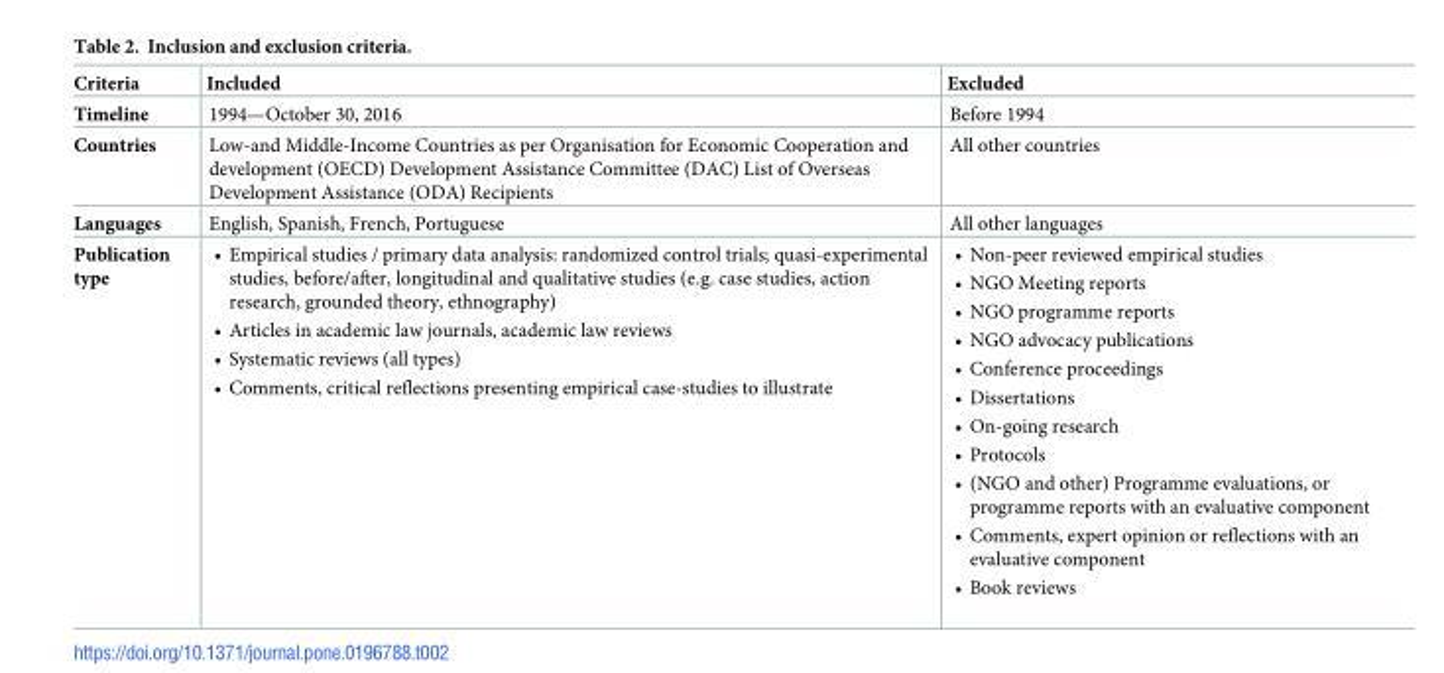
<table><thead><tr><td>Criteria</td><td>Included</td><td>Excluded</td></tr></thead><tbody><tr><td>Timeline</td><td>1994—October 30, 2016</td><td>Before 1994</td></tr><tr><td>Countries</td><td>Low-and Middle-Income Countries as per Organisation for Economic Cooperation and development (OECD) Development Assistance Committee (DAC) List of Overseas Development Assistance (ODA) Recipients</td><td>All other countries</td></tr><tr><td>Languages</td><td>English, Spanish, French, Portuguese</td><td>All other languages</td></tr><tr><td>Publication type</td><td>• Empirical studies / primary data analysis: randomized control trials; quasi-experimental studies, before/after, longitudinal and qualitative studies (e.g. case studies, action research, grounded theory, ethnography) • Articles in academic law journals, academic law reviews • Systematic reviews (all types) • Comments, critical reflections presenting empirical case-studies to illustrate</td><td>• Non-peer reviewed empirical studies • NGO Meeting reports • NGO programme reports • NGO advocacy publications • Conference proceedings • Dissertations • On-going research • Protocols • (NGO and other) Programme evaluations, or programme reports with an evaluative component • Comments, expert opinion or reflections with an evaluative component • Book reviews</td></tr></tbody></table>